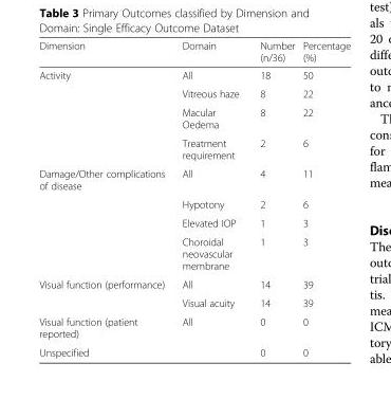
<table><thead><tr><td>Dimension</td><td>Domain</td><td>Number (n/36)</td><td>Percentage (%)</td></tr></thead><tbody><tr><td rowspan="4">Activity</td><td>All</td><td>18</td><td>50</td></tr><tr><td>Vitreous haze</td><td>8</td><td>22</td></tr><tr><td>Macular Oedema</td><td>8</td><td>22</td></tr><tr><td>Treatment requirement</td><td>2</td><td>6</td></tr><tr><td rowspan="4">Damage/Other complications of disease</td><td>All</td><td>4</td><td>11</td></tr><tr><td>Hypotony</td><td>2</td><td>6</td></tr><tr><td>Elevated IOP</td><td>1</td><td>3</td></tr><tr><td>Choroidal neovascular membrane</td><td>1</td><td>3</td></tr><tr><td rowspan="2">Visual function (performance)</td><td>All</td><td>14</td><td>39</td></tr><tr><td>Visual acuity</td><td>14</td><td>39</td></tr><tr><td>Visual function (patient reported)</td><td>All</td><td>0</td><td>0</td></tr><tr><td>Unspecified</td><td></td><td>0</td><td>0</td></tr></tbody></table>